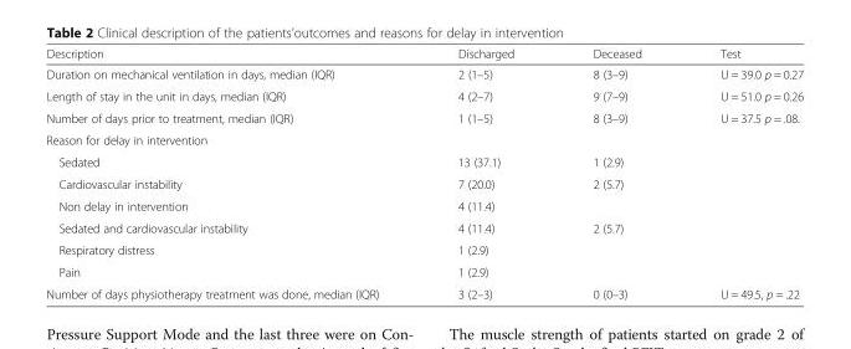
<table><thead><tr><td>Description</td><td>Discharged</td><td>Deceased</td><td>Test</td></tr></thead><tbody><tr><td>Duration on mechanical ventilation in days, median (IQR)</td><td>2 (1–5)</td><td>8 (3–9)</td><td>U = 39.0 p = 0.27</td></tr><tr><td>Length of stay in the unit in days, median (IQR)</td><td>4 (2–7)</td><td>9 (7–9)</td><td>U = 51.0 p = 0.26</td></tr><tr><td>Number of days prior to treatment, median (IQR)</td><td>1 (1–5)</td><td>8 (3–9)</td><td>U = 37.5 p = .08.</td></tr><tr><td colspan="4">Reason for delay in intervention</td></tr><tr><td>Sedated</td><td>13 (37.1)</td><td>1 (2.9)</td><td></td></tr><tr><td>Cardiovascular instability</td><td>7 (20.0)</td><td>2 (5.7)</td><td></td></tr><tr><td>Non delay in intervention</td><td>4 (11.4)</td><td></td><td></td></tr><tr><td>Sedated and cardiovascular instability</td><td>4 (11.4)</td><td>2 (5.7)</td><td></td></tr><tr><td>Respiratory distress</td><td>1 (2.9)</td><td></td><td></td></tr><tr><td>Pain</td><td>1 (2.9)</td><td></td><td></td></tr><tr><td>Number of days physiotherapy treatment was done, median (IQR)</td><td>3 (2–3)</td><td>0 (0–3)</td><td>U = 49.5, p = .22</td></tr></tbody></table>